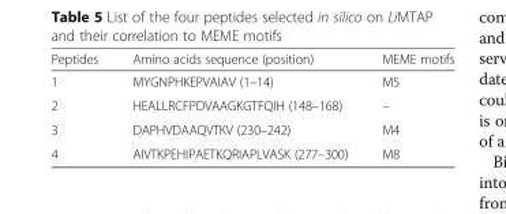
<table><thead><tr><td>Peptides</td><td>Amino acids sequence (position)</td><td>MEME motifs</td></tr></thead><tbody><tr><td>1</td><td>MYGNPHKEPVAIAV (1–14)</td><td>M5</td></tr><tr><td>2</td><td>HEALLRCFPDVAAGKGTFQIH (148–168)</td><td>–</td></tr><tr><td>3</td><td>DAPHVDAAQVTKV (230–242)</td><td>M4</td></tr><tr><td>4</td><td>AIVTKPEHIPAETKQRIAPLVASK (277–300)</td><td>M8</td></tr></tbody></table>